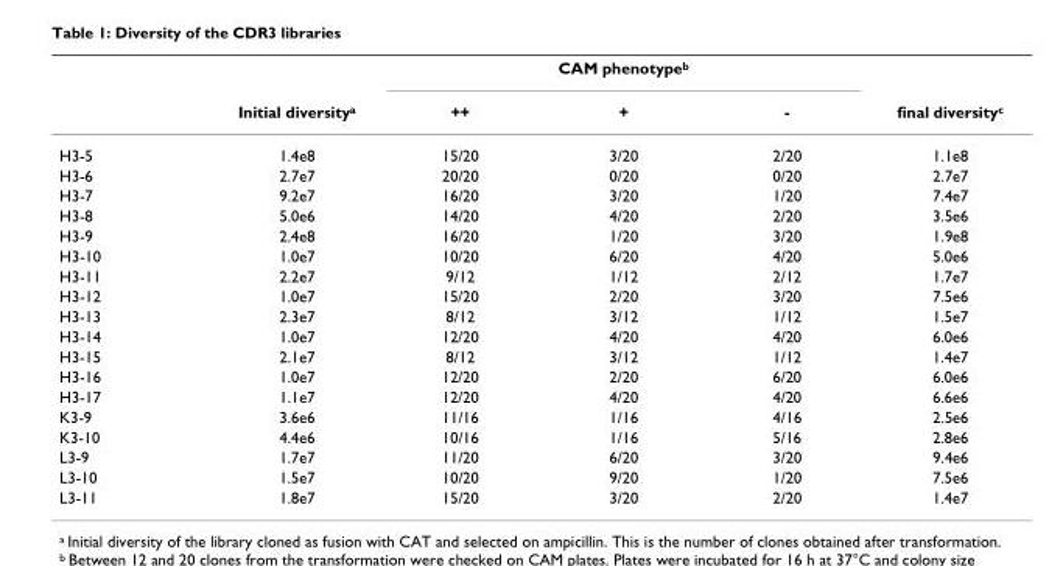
<table><thead><tr><td rowspan="2"></td><td rowspan="2">Initial diversity<sup>a</sup></td><td colspan="3">CAM phenotype<sup>b</sup></td><td rowspan="2">final diversity<sup>c</sup></td></tr><tr><td>++</td><td>+</td><td>-</td></tr></thead><tbody><tr><td>H3-5</td><td>1.4e8</td><td>15/20</td><td>3/20</td><td>2/20</td><td>1.1e8</td></tr><tr><td>H3-6</td><td>2.7e7</td><td>20/20</td><td>0/20</td><td>0/20</td><td>2.7e7</td></tr><tr><td>H3-7</td><td>9.2e7</td><td>16/20</td><td>3/20</td><td>1/20</td><td>7.4e7</td></tr><tr><td>H3-8</td><td>5.0e6</td><td>14/20</td><td>4/20</td><td>2/20</td><td>3.5e6</td></tr><tr><td>H3-9</td><td>2.4e8</td><td>16/20</td><td>1/20</td><td>3/20</td><td>1.9e8</td></tr><tr><td>H3-10</td><td>1.0e7</td><td>10/20</td><td>6/20</td><td>4/20</td><td>5.0e6</td></tr><tr><td>H3-11</td><td>2.2e7</td><td>9/12</td><td>1/12</td><td>2/12</td><td>1.7e7</td></tr><tr><td>H3-12</td><td>1.0e7</td><td>15/20</td><td>2/20</td><td>3/20</td><td>7.5e6</td></tr><tr><td>H3-13</td><td>2.3e7</td><td>8/12</td><td>3/12</td><td>1/12</td><td>1.5e7</td></tr><tr><td>H3-14</td><td>1.0e7</td><td>12/20</td><td>4/20</td><td>4/20</td><td>6.0e6</td></tr><tr><td>H3-15</td><td>2.1e7</td><td>8/12</td><td>3/12</td><td>1/12</td><td>1.4e7</td></tr><tr><td>H3-16</td><td>1.0e7</td><td>12/20</td><td>2/20</td><td>6/20</td><td>6.0e6</td></tr><tr><td>H3-17</td><td>1.1e7</td><td>12/20</td><td>4/20</td><td>4/20</td><td>6.6e6</td></tr><tr><td>K3-9</td><td>3.6e6</td><td>11/16</td><td>1/16</td><td>4/16</td><td>2.5e6</td></tr><tr><td>K3-10</td><td>4.4e6</td><td>10/16</td><td>1/16</td><td>5/16</td><td>2.8e6</td></tr><tr><td>L3-9</td><td>1.7e7</td><td>11/20</td><td>6/20</td><td>3/20</td><td>9.4e6</td></tr><tr><td>L3-10</td><td>1.5e7</td><td>10/20</td><td>9/20</td><td>1/20</td><td>7.5e6</td></tr><tr><td>L3-11</td><td>1.8e7</td><td>15/20</td><td>3/20</td><td>2/20</td><td>1.4e7</td></tr></tbody></table>